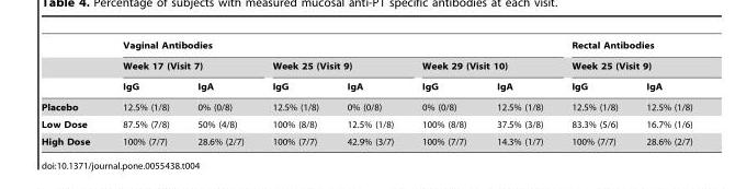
<table><thead><tr><td rowspan="3"></td><td colspan="6">Vaginal Antibodies</td><td rowspan="2" colspan="2">Rectal Antibodies Week 25 (Visit 9)</td></tr><tr><td colspan="2">Week 17 (Visit 7)</td><td colspan="2">Week 25 (Visit 9)</td><td colspan="2">Week 29 (Visit 10)</td></tr><tr><td>IgG</td><td>IgA</td><td>IgG</td><td>IgA</td><td>IgG</td><td>IgA</td><td>IgG</td><td>IgA</td></tr></thead><tbody><tr><td>Placebo</td><td>12.5% (1/8)</td><td>0% (0/8)</td><td>12.5% (1/8)</td><td>0% (0/8)</td><td>0% (0/8)</td><td>12.5% (1/8)</td><td>12.5% (1/8)</td><td>12.5% (1/8)</td></tr><tr><td>Low Dose</td><td>87.5% (7/8)</td><td>50% (4/8)</td><td>100% (8/8)</td><td>12.5% (1/8)</td><td>100% (8/8)</td><td>37.5% (3/8)</td><td>83.3% (5/6)</td><td>16.7% (1/6)</td></tr><tr><td>High Dose</td><td>100% (7/7)</td><td>28.6% (2/7)</td><td>100% (7/7)</td><td>42.9% (3/7)</td><td>100% (7/7)</td><td>14.3% (1/7)</td><td>100% (7/7)</td><td>28.6% (2/7)</td></tr></tbody></table>